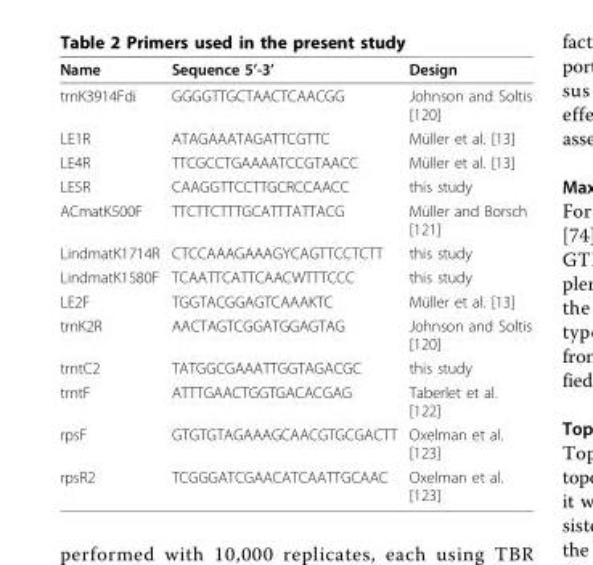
<table><thead><tr><td>Name</td><td>Sequence 5’-3’</td><td>Design</td></tr></thead><tbody><tr><td>trnK3914Fdi</td><td>GGGGTTGCTAACTCAACGG</td><td>Johnson and Soltis [120]</td></tr><tr><td>LE1R</td><td>ATAGAAATAGATTCGTTC</td><td>Müller et al. [13]</td></tr><tr><td>LE4R</td><td>TTCGCCTGAAAATCCGTAACC</td><td>Müller et al. [13]</td></tr><tr><td>LE5R</td><td>CAAGGTTCCTTGCRCCAACC</td><td>this study</td></tr><tr><td>ACmatK500F</td><td>TTCTTCTTTGCATTTATTACG</td><td>Müller and Borsch [121]</td></tr><tr><td>LindmatK1714R</td><td>CTCCAAAGAAAGYCAGTTCCTCTT</td><td>this study</td></tr><tr><td>LindmatK1580F</td><td>TCAATTCATTCAACWTTTCCC</td><td>this study</td></tr><tr><td>LE2F</td><td>TGGTACGGAGTCAAAKTC</td><td>Müller et al. [13]</td></tr><tr><td>trnK2R</td><td>AACTAGTCGGATGGAGTAG</td><td>Johnson and Soltis [120]</td></tr><tr><td>trntC2</td><td>TATGGCGAAATTGGTAGACGC</td><td>this study</td></tr><tr><td>trntF</td><td>ATTTGAACTGGTGACACGAG</td><td>Taberlet et al. [122]</td></tr><tr><td>rpsF</td><td>GTGTGTAGAAAGCAACGTGCGACTT</td><td>Oxelman et al. [123]</td></tr><tr><td>rpsR2</td><td>TCGGGATCGAACATCAATTGCAAC</td><td>Oxelman et al. [123]</td></tr></tbody></table>